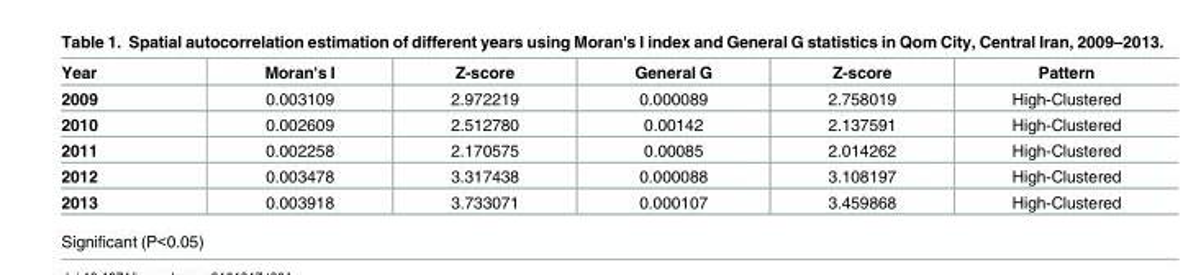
<table><thead><tr><td>Year</td><td>Moran&#x27;s I</td><td>Z-score</td><td>General G</td><td>Z-score</td><td>Pattern</td></tr></thead><tbody><tr><td>2009</td><td>0.003109</td><td>2.972219</td><td>0.000089</td><td>2.758019</td><td>High-Clustered</td></tr><tr><td>2010</td><td>0.002609</td><td>2.512780</td><td>0.00142</td><td>2.137591</td><td>High-Clustered</td></tr><tr><td>2011</td><td>0.002258</td><td>2.170575</td><td>0.00085</td><td>2.014262</td><td>High-Clustered</td></tr><tr><td>2012</td><td>0.003478</td><td>3.317438</td><td>0.000088</td><td>3.108197</td><td>High-Clustered</td></tr><tr><td>2013</td><td>0.003918</td><td>3.733071</td><td>0.000107</td><td>3.459868</td><td>High-Clustered</td></tr></tbody></table>